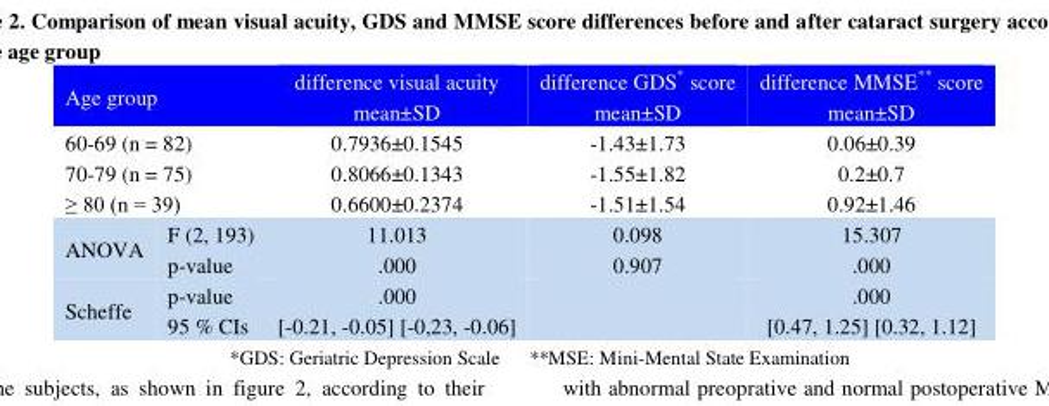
<table><thead><tr><td colspan="2">Age group</td><td>difference visual acuity mean±SD</td><td>difference GDS* score mean±SD</td><td>difference MMSE** score mean±SD</td></tr></thead><tbody><tr><td colspan="2">60-69 (n = 82)</td><td>0.7936±0.1545</td><td>-1.43±1.73</td><td>0.06±0.39</td></tr><tr><td colspan="2">70-79 (n = 75)</td><td>0.8066±0.1343</td><td>-1.55±1.82</td><td>0.2±0.7</td></tr><tr><td colspan="2">≥ 80 (n = 39)</td><td>0.6600±0.2374</td><td>-1.51±1.54</td><td>0.92±1.46</td></tr><tr><td rowspan="2">ANOVA</td><td>F (2, 193)</td><td>11.013</td><td>0.098</td><td>15.307</td></tr><tr><td>p-value</td><td>.000</td><td>0.907</td><td>.000</td></tr><tr><td rowspan="2">Scheffe</td><td>p-value</td><td>.000</td><td></td><td>.000</td></tr><tr><td>95 % CIs</td><td>[-0.21, -0.05] [-0,23, -0.06]</td><td></td><td>[0.47, 1.25] [0.32, 1.12]</td></tr></tbody></table>